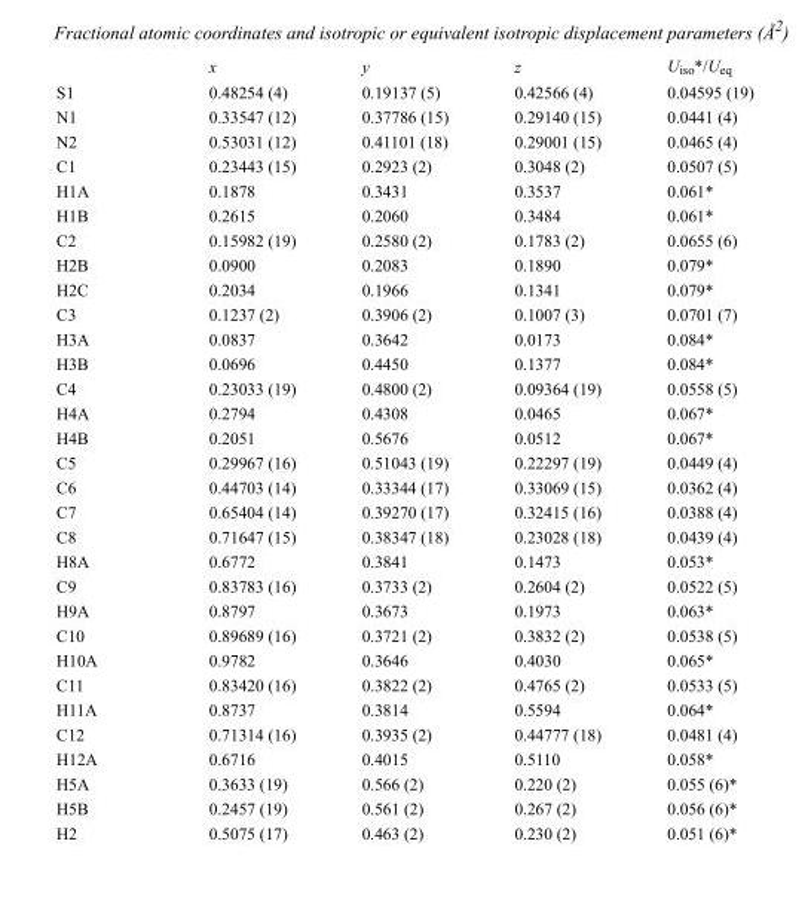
<table><thead><tr><td></td><td>x</td><td>y</td><td>z</td><td>U<sub>iso</sub>*/U<sub>eq</sub></td></tr></thead><tbody><tr><td>S1</td><td>0.48254 (4)</td><td>0.19137 (5)</td><td>0.42566 (4)</td><td>0.04595 (19)</td></tr><tr><td>N1</td><td>0.33547 (12)</td><td>0.37786 (15)</td><td>0.29140 (15)</td><td>0.0441 (4)</td></tr><tr><td>N2</td><td>0.53031 (12)</td><td>0.41101 (18)</td><td>0.29001 (15)</td><td>0.0465 (4)</td></tr><tr><td>C1</td><td>0.23443 (15)</td><td>0.2923 (2)</td><td>0.3048 (2)</td><td>0.0507 (5)</td></tr><tr><td>H1A</td><td>0.1878</td><td>0.3431</td><td>0.3537</td><td>0.061*</td></tr><tr><td>H1B</td><td>0.2615</td><td>0.2060</td><td>0.3484</td><td>0.061*</td></tr><tr><td>C2</td><td>0.15982 (19)</td><td>0.2580 (2)</td><td>0.1783 (2)</td><td>0.0655 (6)</td></tr><tr><td>H2B</td><td>0.0900</td><td>0.2083</td><td>0.1890</td><td>0.079*</td></tr><tr><td>H2C</td><td>0.2034</td><td>0.1966</td><td>0.1341</td><td>0.079*</td></tr><tr><td>C3</td><td>0.1237 (2)</td><td>0.3906 (2)</td><td>0.1007 (3)</td><td>0.0701 (7)</td></tr><tr><td>H3A</td><td>0.0837</td><td>0.3642</td><td>0.0173</td><td>0.084*</td></tr><tr><td>H3B</td><td>0.0696</td><td>0.4450</td><td>0.1377</td><td>0.084*</td></tr><tr><td>C4</td><td>0.23033 (19)</td><td>0.4800 (2)</td><td>0.09364 (19)</td><td>0.0558 (5)</td></tr><tr><td>H4A</td><td>0.2794</td><td>0.4308</td><td>0.0465</td><td>0.067*</td></tr><tr><td>H4B</td><td>0.2051</td><td>0.5676</td><td>0.0512</td><td>0.067*</td></tr><tr><td>C5</td><td>0.29967 (16)</td><td>0.51043 (19)</td><td>0.22297 (19)</td><td>0.0449 (4)</td></tr><tr><td>C6</td><td>0.44703 (14)</td><td>0.33344 (17)</td><td>0.33069 (15)</td><td>0.0362 (4)</td></tr><tr><td>C7</td><td>0.65404 (14)</td><td>0.39270 (17)</td><td>0.32415 (16)</td><td>0.0388 (4)</td></tr><tr><td>C8</td><td>0.71647 (15)</td><td>0.38347 (18)</td><td>0.23028 (18)</td><td>0.0439 (4)</td></tr><tr><td>H8A</td><td>0.6772</td><td>0.3841</td><td>0.1473</td><td>0.053*</td></tr><tr><td>C9</td><td>0.83783 (16)</td><td>0.3733 (2)</td><td>0.2604 (2)</td><td>0.0522 (5)</td></tr><tr><td>H9A</td><td>0.8797</td><td>0.3673</td><td>0.1973</td><td>0.063*</td></tr><tr><td>C10</td><td>0.89689 (16)</td><td>0.3721 (2)</td><td>0.3832 (2)</td><td>0.0538 (5)</td></tr><tr><td>H10A</td><td>0.9782</td><td>0.3646</td><td>0.4030</td><td>0.065*</td></tr><tr><td>C11</td><td>0.83420 (16)</td><td>0.3822 (2)</td><td>0.4765 (2)</td><td>0.0533 (5)</td></tr><tr><td>H11A</td><td>0.8737</td><td>0.3814</td><td>0.5594</td><td>0.064*</td></tr><tr><td>C12</td><td>0.71314 (16)</td><td>0.3935 (2)</td><td>0.44777 (18)</td><td>0.0481 (4)</td></tr><tr><td>H12A</td><td>0.6716</td><td>0.4015</td><td>0.5110</td><td>0.058*</td></tr><tr><td>H5A</td><td>0.3633 (19)</td><td>0.566 (2)</td><td>0.220 (2)</td><td>0.055 (6)*</td></tr><tr><td>H5B</td><td>0.2457 (19)</td><td>0.561 (2)</td><td>0.267 (2)</td><td>0.056 (6)*</td></tr><tr><td>H2</td><td>0.5075 (17)</td><td>0.463 (2)</td><td>0.230 (2)</td><td>0.051 (6)*</td></tr></tbody></table>